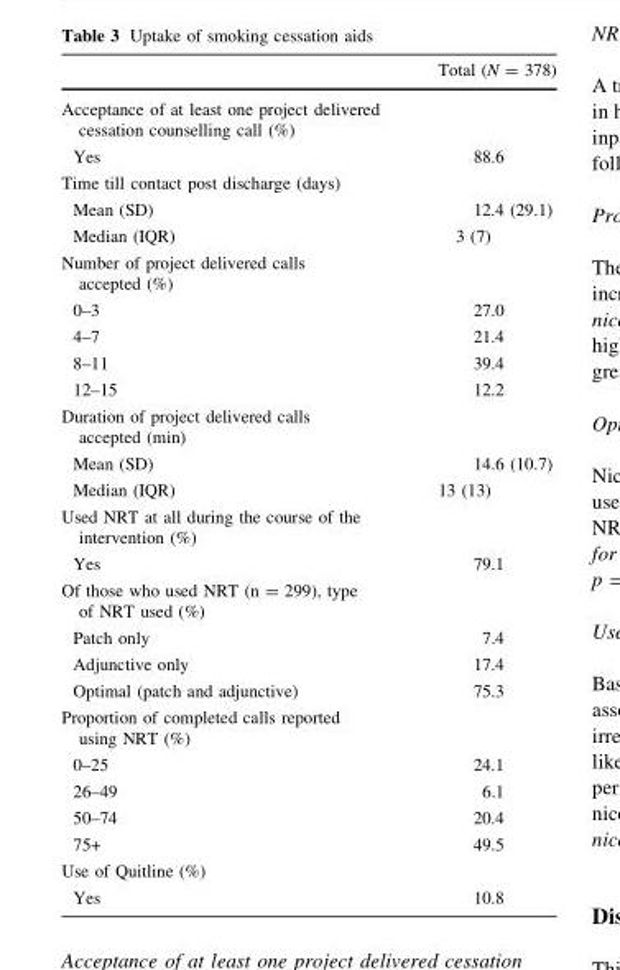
<table><thead><tr><td></td><td>Total (N = 378)</td></tr></thead><tbody><tr><td colspan="2">Acceptance of at least one project delivered cessation counselling call (%)</td></tr><tr><td>Yes</td><td>88.6</td></tr><tr><td colspan="2">Time till contact post discharge (days)</td></tr><tr><td>Mean (SD)</td><td>12.4 (29.1)</td></tr><tr><td>Median (IQR)</td><td>3 (7)</td></tr><tr><td colspan="2">Number of project delivered calls accepted (%)</td></tr><tr><td>0–3</td><td>27.0</td></tr><tr><td>4–7</td><td>21.4</td></tr><tr><td>8–11</td><td>39.4</td></tr><tr><td>12–15</td><td>12.2</td></tr><tr><td colspan="2">Duration of project delivered calls accepted (min)</td></tr><tr><td>Mean (SD)</td><td>14.6 (10.7)</td></tr><tr><td>Median (IQR)</td><td>13 (13)</td></tr><tr><td colspan="2">Used NRT at all during the course of the intervention (%)</td></tr><tr><td>Yes</td><td>79.1</td></tr><tr><td colspan="2">Of those who used NRT (n = 299), type of NRT used (%)</td></tr><tr><td>Patch only</td><td>7.4</td></tr><tr><td>Adjunctive only</td><td>17.4</td></tr><tr><td>Optimal (patch and adjunctive)</td><td>75.3</td></tr><tr><td colspan="2">Proportion of completed calls reported using NRT (%)</td></tr><tr><td>0–25</td><td>24.1</td></tr><tr><td>26–49</td><td>6.1</td></tr><tr><td>50–74</td><td>20.4</td></tr><tr><td>75+</td><td>49.5</td></tr><tr><td colspan="2">Use of Quitline (%)</td></tr><tr><td>Yes</td><td>10.8</td></tr></tbody></table>